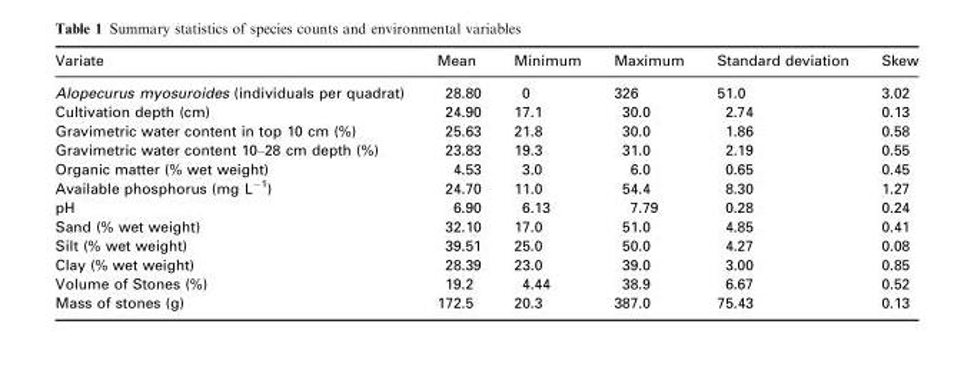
<table><thead><tr><td>Variate</td><td>Mean</td><td>Minimum</td><td>Maximum</td><td>Standard deviation</td><td>Skew</td></tr></thead><tbody><tr><td>Alopecurus myosuroides (individuals per quadrat)</td><td>28.80</td><td>0</td><td>326</td><td>51.0</td><td>3.02</td></tr><tr><td>Cultivation depth (cm)</td><td>24.90</td><td>17.1</td><td>30.0</td><td>2.74</td><td>0.13</td></tr><tr><td>Gravimetric water content in top 10 cm (%)</td><td>25.63</td><td>21.8</td><td>30.0</td><td>1.86</td><td>0.58</td></tr><tr><td>Gravimetric water content 10–28 cm depth (%)</td><td>23.83</td><td>19.3</td><td>31.0</td><td>2.19</td><td>0.55</td></tr><tr><td>Organic matter (% wet weight)</td><td>4.53</td><td>3.0</td><td>6.0</td><td>0.65</td><td>0.45</td></tr><tr><td>Available phosphorus (mg L<sup>−1</sup>)</td><td>24.70</td><td>11.0</td><td>54.4</td><td>8.30</td><td>1.27</td></tr><tr><td>pH</td><td>6.90</td><td>6.13</td><td>7.79</td><td>0.28</td><td>0.24</td></tr><tr><td>Sand (% wet weight)</td><td>32.10</td><td>17.0</td><td>51.0</td><td>4.85</td><td>0.41</td></tr><tr><td>Silt (% wet weight)</td><td>39.51</td><td>25.0</td><td>50.0</td><td>4.27</td><td>0.08</td></tr><tr><td>Clay (% wet weight)</td><td>28.39</td><td>23.0</td><td>39.0</td><td>3.00</td><td>0.85</td></tr><tr><td>Volume of Stones (%)</td><td>19.2</td><td>4.44</td><td>38.9</td><td>6.67</td><td>0.52</td></tr><tr><td>Mass of stones (g)</td><td>172.5</td><td>20.3</td><td>387.0</td><td>75.43</td><td>0.13</td></tr></tbody></table>